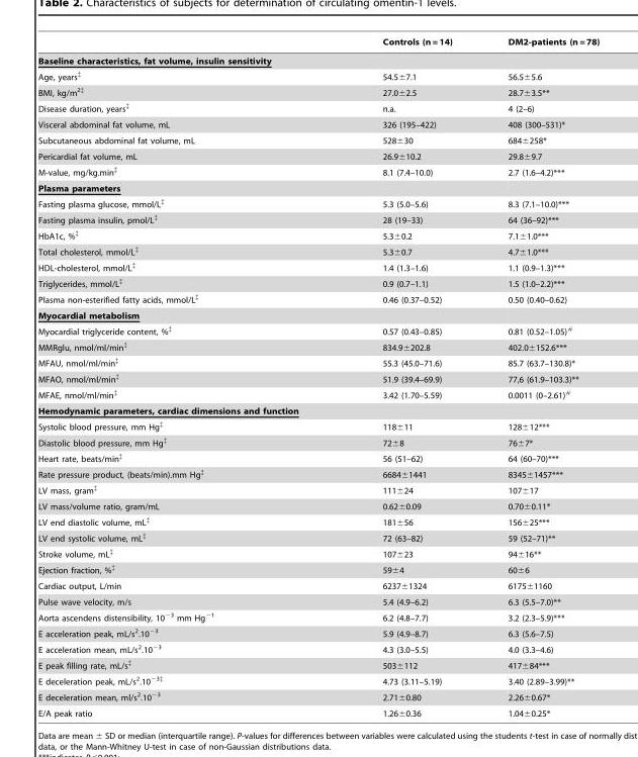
<table><thead><tr><td></td><td>Controls (n = 14)</td><td>DM2-patients (n = 78)</td></tr></thead><tbody><tr><td colspan="3">Baseline characteristics, fat volume, insulin sensitivity</td></tr><tr><td>Age, years‡</td><td>54.5±7.1</td><td>56.5±5.6</td></tr><tr><td>BMI, kg/m<sup>2</sup>‡</td><td>27.0±2.5</td><td>28.7±3.5**</td></tr><tr><td>Disease duration, years‡</td><td>n.a.</td><td>4 (2–6)</td></tr><tr><td>Visceral abdominal fat volume, mL</td><td>326 (195–422)</td><td>408 (300–531)*</td></tr><tr><td>Subcutaneous abdominal fat volume, mL</td><td>528±30</td><td>684±258*</td></tr><tr><td>Pericardial fat volume, mL</td><td>26.9±10.2</td><td>29.8±9.7</td></tr><tr><td>M-value, mg/kg.min‡</td><td>8.1 (7.4–10.0)</td><td>2.7 (1.6–4.2)***</td></tr><tr><td colspan="3">Plasma parameters</td></tr><tr><td>Fasting plasma glucose, mmol/L‡</td><td>5.3 (5.0–5.6)</td><td>8.3 (7.1–10.0)***</td></tr><tr><td>Fasting plasma insulin, pmol/L‡</td><td>28 (19–33)</td><td>64 (36–92)***</td></tr><tr><td>HbA1c, %‡</td><td>5.3±0.2</td><td>7.1±1.0***</td></tr><tr><td>Total cholesterol, mmol/L‡</td><td>5.3±0.7</td><td>4.7±1.0***</td></tr><tr><td>HDL-cholesterol, mmol/L‡</td><td>1.4 (1.3–1.6)</td><td>1.1 (0.9–1.3)***</td></tr><tr><td>Triglycerides, mmol/L‡</td><td>0.9 (0.7–1.1)</td><td>1.5 (1.0–2.2)***</td></tr><tr><td>Plasma non-esterified fatty acids, mmol/L‡</td><td>0.46 (0.37–0.52)</td><td>0.50 (0.40–0.62)</td></tr><tr><td colspan="3">Myocardial metabolism</td></tr><tr><td>Myocardial triglyceride content, %‡</td><td>0.57 (0.43–0.85)</td><td>0.81 (0.52–1.05)#</td></tr><tr><td>MMRglu, nmol/ml/min‡</td><td>834.9±202.8</td><td>402.0±152.6***</td></tr><tr><td>MFAU, nmol/ml/min‡</td><td>55.3 (45.0–71.6)</td><td>85.7 (63.7–130.8)*</td></tr><tr><td>MFAO, nmol/ml/min‡</td><td>51.9 (39.4–69.9)</td><td>77,6 (61.9–103.3)**</td></tr><tr><td>MFAE, nmol/ml/min‡</td><td>3.42 (1.70–5.59)</td><td>0.0011 (0–2.61)#</td></tr><tr><td colspan="3">Hemodynamic parameters, cardiac dimensions and function</td></tr><tr><td>Systolic blood pressure, mm Hg‡</td><td>118±11</td><td>128±12***</td></tr><tr><td>Diastolic blood pressure, mm Hg‡</td><td>72±8</td><td>76±7*</td></tr><tr><td>Heart rate, beats/min‡</td><td>56 (51–62)</td><td>64 (60–70)***</td></tr><tr><td>Rate pressure product, (beats/min).mm Hg‡</td><td>6684±1441</td><td>8345±1457***</td></tr><tr><td>LV mass, gram‡</td><td>111±24</td><td>107±17</td></tr><tr><td>LV mass/volume ratio, gram/mL</td><td>0.62±0.09</td><td>0.70±0.11*</td></tr><tr><td>LV end diastolic volume, mL‡</td><td>181±56</td><td>156±25***</td></tr><tr><td>LV end systolic volume, mL‡</td><td>72 (63–82)</td><td>59 (52–71)**</td></tr><tr><td>Stroke volume, mL‡</td><td>107±23</td><td>94±16**</td></tr><tr><td>Ejection fraction, %‡</td><td>59±4</td><td>60±6</td></tr><tr><td>Cardiac output, L/min</td><td>6237±1324</td><td>6175±1160</td></tr><tr><td>Pulse wave velocity, m/s</td><td>5.4 (4.9–6.2)</td><td>6.3 (5.5–7.0)**</td></tr><tr><td>Aorta ascendens distensibility, 10<sup>−3</sup> mm Hg<sup>−1</sup></td><td>6.2 (4.8–7.7)</td><td>3.2 (2.3–5.9)***</td></tr><tr><td>E acceleration peak, mL/s<sup>2</sup>.10<sup>−3</sup></td><td>5.9 (4.9–8.7)</td><td>6.3 (5.6–7.5)</td></tr><tr><td>E acceleration mean, mL/s<sup>2</sup>.10<sup>−3</sup></td><td>4.3 (3.0–5.5)</td><td>4.0 (3.3–4.6)</td></tr><tr><td>E peak filling rate, mL/s‡</td><td>503±112</td><td>417±84***</td></tr><tr><td>E deceleration peak, mL/s<sup>2</sup>.10<sup>−3</sup>‡</td><td>4.73 (3.11–5.19)</td><td>3.40 (2.89–3.99)**</td></tr><tr><td>E deceleration mean, ml/s<sup>2</sup>.10<sup>−3</sup></td><td>2.71±0.80</td><td>2.26±0.67*</td></tr><tr><td>E/A peak ratio</td><td>1.26±0.36</td><td>1.04±0.25*</td></tr></tbody></table>